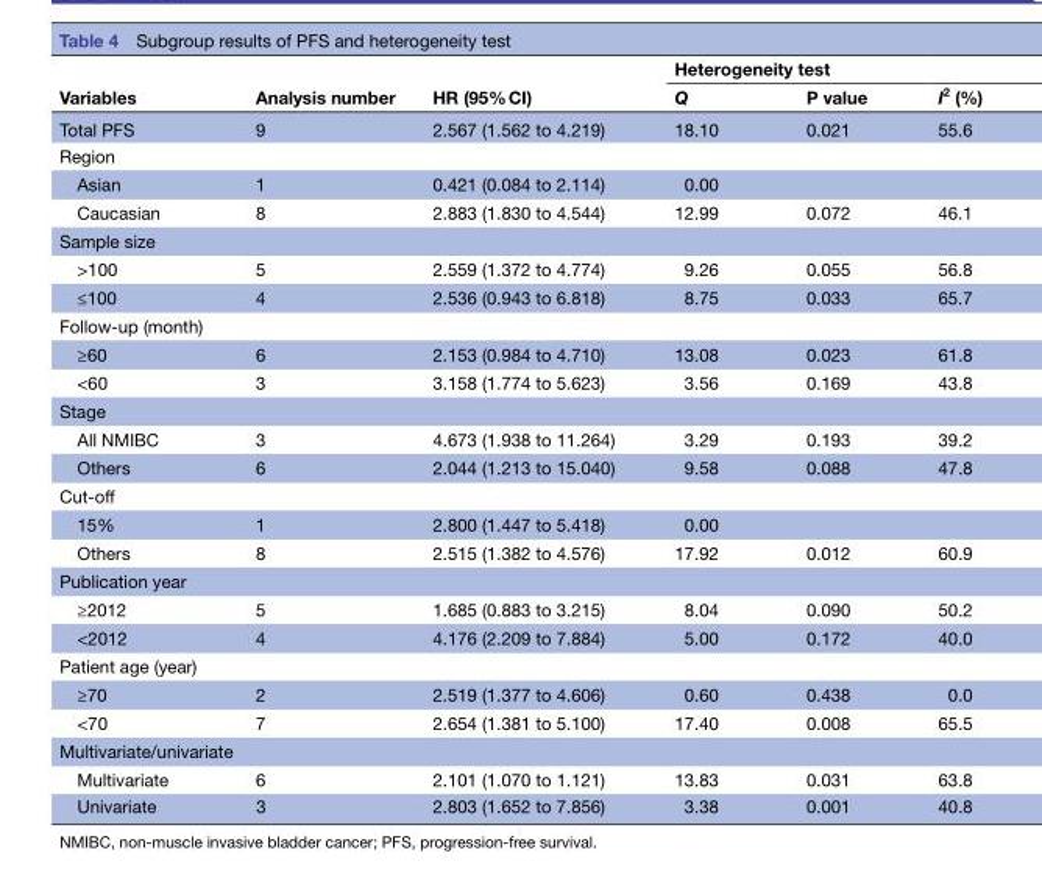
<table><thead><tr><td rowspan="2">Variables</td><td rowspan="2">Analysis number</td><td rowspan="2">HR (95% CI)</td><td colspan="3">Heterogeneity test</td></tr><tr><td>Q</td><td>P value</td><td>I<sup>2</sup> (%)</td></tr></thead><tbody><tr><td>Total PFS</td><td>9</td><td>2.567 (1.562 to 4.219)</td><td>18.10</td><td>0.021</td><td>55.6</td></tr><tr><td colspan="6">Region</td></tr><tr><td>Asian</td><td>1</td><td>0.421 (0.084 to 2.114)</td><td>0.00</td><td></td><td></td></tr><tr><td>Caucasian</td><td>8</td><td>2.883 (1.830 to 4.544)</td><td>12.99</td><td>0.072</td><td>46.1</td></tr><tr><td colspan="6">Sample size</td></tr><tr><td>&gt;100</td><td>5</td><td>2.559 (1.372 to 4.774)</td><td>9.26</td><td>0.055</td><td>56.8</td></tr><tr><td>≤100</td><td>4</td><td>2.536 (0.943 to 6.818)</td><td>8.75</td><td>0.033</td><td>65.7</td></tr><tr><td colspan="6">Follow-up (month)</td></tr><tr><td>≥60</td><td>6</td><td>2.153 (0.984 to 4.710)</td><td>13.08</td><td>0.023</td><td>61.8</td></tr><tr><td>&lt;60</td><td>3</td><td>3.158 (1.774 to 5.623)</td><td>3.56</td><td>0.169</td><td>43.8</td></tr><tr><td colspan="6">Stage</td></tr><tr><td>All NMIBC</td><td>3</td><td>4.673 (1.938 to 11.264)</td><td>3.29</td><td>0.193</td><td>39.2</td></tr><tr><td>Others</td><td>6</td><td>2.044 (1.213 to 15.040)</td><td>9.58</td><td>0.088</td><td>47.8</td></tr><tr><td colspan="6">Cut-off</td></tr><tr><td>15%</td><td>1</td><td>2.800 (1.447 to 5.418)</td><td>0.00</td><td></td><td></td></tr><tr><td>Others</td><td>8</td><td>2.515 (1.382 to 4.576)</td><td>17.92</td><td>0.012</td><td>60.9</td></tr><tr><td colspan="6">Publication year</td></tr><tr><td>≥2012</td><td>5</td><td>1.685 (0.883 to 3.215)</td><td>8.04</td><td>0.090</td><td>50.2</td></tr><tr><td>&lt;2012</td><td>4</td><td>4.176 (2.209 to 7.884)</td><td>5.00</td><td>0.172</td><td>40.0</td></tr><tr><td colspan="6">Patient age (year)</td></tr><tr><td>≥70</td><td>2</td><td>2.519 (1.377 to 4.606)</td><td>0.60</td><td>0.438</td><td>0.0</td></tr><tr><td>&lt;70</td><td>7</td><td>2.654 (1.381 to 5.100)</td><td>17.40</td><td>0.008</td><td>65.5</td></tr><tr><td colspan="6">Multivariate/univariate</td></tr><tr><td>Multivariate</td><td>6</td><td>2.101 (1.070 to 1.121)</td><td>13.83</td><td>0.031</td><td>63.8</td></tr><tr><td>Univariate</td><td>3</td><td>2.803 (1.652 to 7.856)</td><td>3.38</td><td>0.001</td><td>40.8</td></tr></tbody></table>